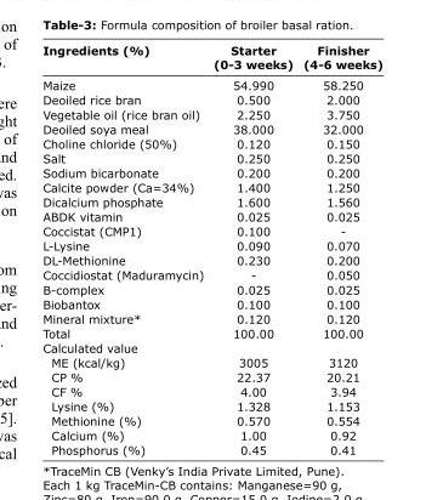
<table><thead><tr><td>Ingredients (%)</td><td>Starter (0-3 weeks)</td><td>Finisher (4-6 weeks)</td></tr></thead><tbody><tr><td>Maize</td><td>54.990</td><td>58.250</td></tr><tr><td>Deoiled rice bran</td><td>0.500</td><td>2.000</td></tr><tr><td>Vegetable oil (rice bran oil)</td><td>2.250</td><td>3.750</td></tr><tr><td>Deoiled soya meal</td><td>38.000</td><td>32.000</td></tr><tr><td>Choline chloride (50%)</td><td>0.120</td><td>0.150</td></tr><tr><td>Salt</td><td>0.250</td><td>0.250</td></tr><tr><td>Sodium bicarbonate</td><td>0.200</td><td>0.200</td></tr><tr><td>Calcite powder (Ca=34%)</td><td>1.400</td><td>1.250</td></tr><tr><td>Dicalcium phosphate</td><td>1.600</td><td>1.560</td></tr><tr><td>ABDK vitamin</td><td>0.025</td><td>0.025</td></tr><tr><td>Coccistat (CMP1)</td><td>0.100</td><td>-</td></tr><tr><td>L-Lysine</td><td>0.090</td><td>0.070</td></tr><tr><td>DL-Methionine</td><td>0.230</td><td>0.200</td></tr><tr><td>Coccidiostat (Maduramycin)</td><td>-</td><td>0.050</td></tr><tr><td>B-complex</td><td>0.025</td><td>0.025</td></tr><tr><td>Biobantox</td><td>0.100</td><td>0.100</td></tr><tr><td>Mineral mixture*</td><td>0.120</td><td>0.120</td></tr><tr><td>Total</td><td>100.00</td><td>100.00</td></tr><tr><td colspan="3">Calculated value</td></tr><tr><td>ME (kcal/kg)</td><td>3005</td><td>3120</td></tr><tr><td>CP %</td><td>22.37</td><td>20.21</td></tr><tr><td>CF %</td><td>4.00</td><td>3.94</td></tr><tr><td>Lysine (%)</td><td>1.328</td><td>1.153</td></tr><tr><td>Methionine (%)</td><td>0.570</td><td>0.554</td></tr><tr><td>Calcium (%)</td><td>1.00</td><td>0.92</td></tr><tr><td>Phosphorus (%)</td><td>0.45</td><td>0.41</td></tr></tbody></table>